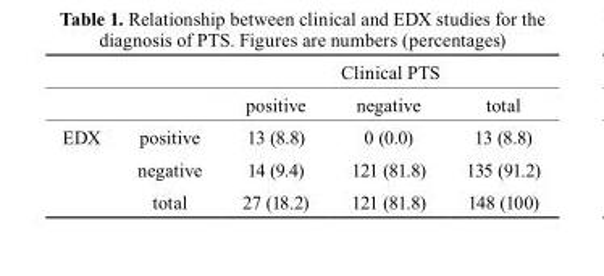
<table><thead><tr><td rowspan="2"></td><td rowspan="2"></td><td colspan="3">Clinical PTS</td></tr><tr><td>positive</td><td>negative</td><td>total</td></tr></thead><tbody><tr><td rowspan="3">EDX</td><td>positive</td><td>13 (8.8)</td><td>0 (0.0)</td><td>13 (8.8)</td></tr><tr><td>negative</td><td>14 (9.4)</td><td>121 (81.8)</td><td>135 (91.2)</td></tr><tr><td>total</td><td>27 (18.2)</td><td>121 (81.8)</td><td>148 (100)</td></tr></tbody></table>